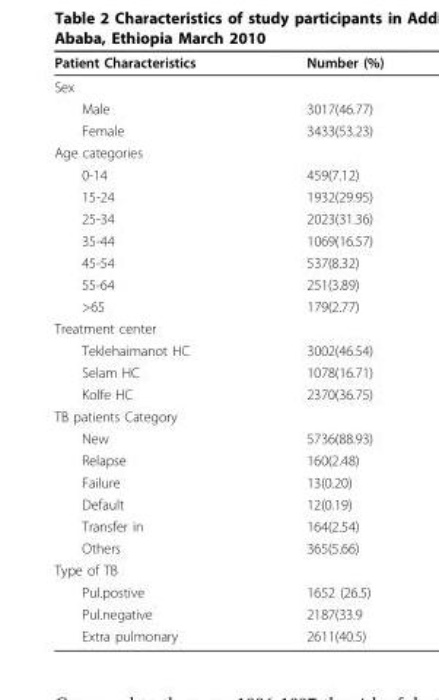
<table><thead><tr><td>Patient Characteristics</td><td>Number (%)</td></tr></thead><tbody><tr><td colspan="2">Sex</td></tr><tr><td>Male</td><td>3017(46.77)</td></tr><tr><td>Female</td><td>3433(53.23)</td></tr><tr><td colspan="2">Age categories</td></tr><tr><td>0-14</td><td>459(7.12)</td></tr><tr><td>15-24</td><td>1932(29.95)</td></tr><tr><td>25-34</td><td>2023(31.36)</td></tr><tr><td>35-44</td><td>1069(16.57)</td></tr><tr><td>45-54</td><td>537(8.32)</td></tr><tr><td>55-64</td><td>251(3.89)</td></tr><tr><td>&gt;65</td><td>179(2.77)</td></tr><tr><td colspan="2">Treatment center</td></tr><tr><td>Teklehaimanot HC</td><td>3002(46.54)</td></tr><tr><td>Selam HC</td><td>1078(16.71)</td></tr><tr><td>Kolfe HC</td><td>2370(36.75)</td></tr><tr><td colspan="2">TB patients Category</td></tr><tr><td>New</td><td>5736(88.93)</td></tr><tr><td>Relapse</td><td>160(2.48)</td></tr><tr><td>Failure</td><td>13(0.20)</td></tr><tr><td>Default</td><td>12(0.19)</td></tr><tr><td>Transfer in</td><td>164(2.54)</td></tr><tr><td>Others</td><td>365(5.66)</td></tr><tr><td colspan="2">Type of TB</td></tr><tr><td>Pul.postive</td><td>1652 (26.5)</td></tr><tr><td>Pul.negative</td><td>2187(33.9</td></tr><tr><td>Extra pulmonary</td><td>2611(40.5)</td></tr></tbody></table>